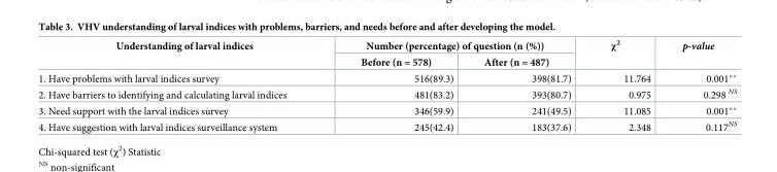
<table><thead><tr><td rowspan="2">Understanding of larval indices</td><td colspan="2">Number (percentage) of question (n (%))</td><td rowspan="2">χ<sup>2</sup></td><td rowspan="2">p-value</td></tr><tr><td>Before (n = 578)</td><td>After (n = 487)</td></tr></thead><tbody><tr><td>1. Have problems with larval indices survey</td><td>516(89.3)</td><td>398(81.7)</td><td>11.764</td><td>0.001**</td></tr><tr><td>2. Have barriers to identifying and calculating larval indices</td><td>481(83.2)</td><td>393(80.7)</td><td>0.975</td><td>0.298 <sup>NS</sup></td></tr><tr><td>3. Need support with the larval indices survey</td><td>346(59.9)</td><td>241(49.5)</td><td>11.085</td><td>0.001**</td></tr><tr><td>4. Have suggestion with larval indices surveillance system</td><td>245(42.4)</td><td>183(37.6)</td><td>2.348</td><td>0.117<sup>NS</sup></td></tr></tbody></table>